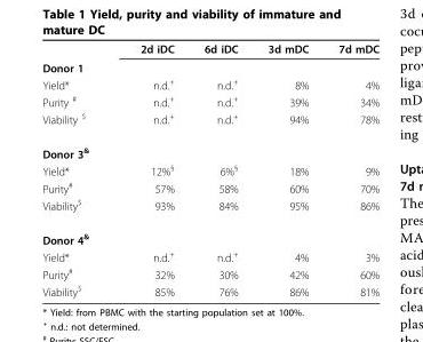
<table><thead><tr><td></td><td>2d iDC</td><td>6d iDC</td><td>3d mDC</td><td>7d mDC</td></tr></thead><tbody><tr><td colspan="5">Donor 1</td></tr><tr><td>Yield*</td><td>n.d.<sup>+</sup></td><td>n.d.<sup>+</sup></td><td>8%</td><td>4%</td></tr><tr><td>Purity <sup>#</sup></td><td>n.d.<sup>+</sup></td><td>n.d.<sup>+</sup></td><td>39%</td><td>34%</td></tr><tr><td>Viability <sup>$</sup></td><td>n.d.<sup>+</sup></td><td>n.d.<sup>+</sup></td><td>94%</td><td>78%</td></tr><tr><td colspan="5">Donor 3<sup>&amp;</sup></td></tr><tr><td>Yield*</td><td>12%<sup>§</sup></td><td>6%<sup>§</sup></td><td>18%</td><td>9%</td></tr><tr><td>Purity<sup>#</sup></td><td>57%</td><td>58%</td><td>60%</td><td>70%</td></tr><tr><td>Viability<sup>$</sup></td><td>93%</td><td>84%</td><td>95%</td><td>86%</td></tr><tr><td colspan="5">Donor 4<sup>&amp;</sup></td></tr><tr><td>Yield*</td><td>n.d.<sup>+</sup></td><td>n.d.<sup>+</sup></td><td>4%</td><td>3%</td></tr><tr><td>Purity<sup>#</sup></td><td>32%</td><td>30%</td><td>42%</td><td>60%</td></tr><tr><td>Viability<sup>$</sup></td><td>85%</td><td>76%</td><td>86%</td><td>81%</td></tr></tbody></table>